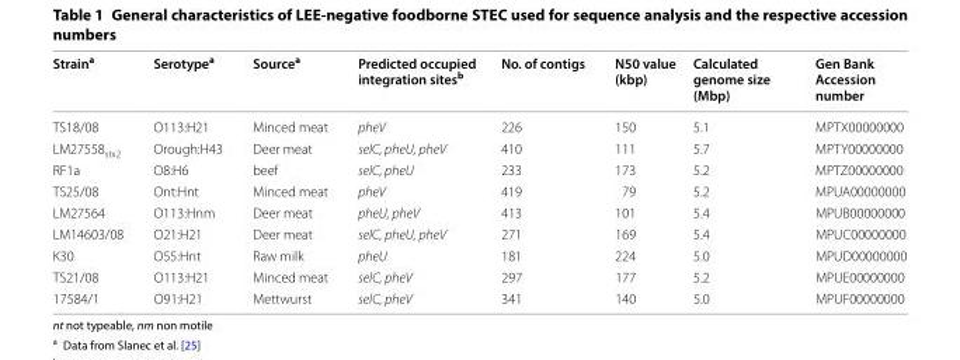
<table><thead><tr><td>Strain<sup>a</sup></td><td>Serotype<sup>a</sup></td><td>Source<sup>a</sup></td><td>Predicted occupied integration sites<sup>b</sup></td><td>No. of contigs</td><td>N50 value (kbp)</td><td>Calculated genome size (Mbp)</td><td>Gen Bank Accession number</td></tr></thead><tbody><tr><td>TS18/08</td><td>O113:H21</td><td>Minced meat</td><td>pheV</td><td>226</td><td>150</td><td>5.1</td><td>MPTX00000000</td></tr><tr><td>LM27558<sub>stx2</sub></td><td>Orough:H43</td><td>Deer meat</td><td>selC, pheU, pheV</td><td>410</td><td>111</td><td>5.7</td><td>MPTY00000000</td></tr><tr><td>RF1a</td><td>O8:H6</td><td>beef</td><td>selC, pheU</td><td>233</td><td>173</td><td>5.2</td><td>MPTZ00000000</td></tr><tr><td>TS25/08</td><td>Ont:Hnt</td><td>Minced meat</td><td>pheV</td><td>419</td><td>79</td><td>5.2</td><td>MPUA00000000</td></tr><tr><td>LM27564</td><td>O113:Hnm</td><td>Deer meat</td><td>pheU, pheV</td><td>413</td><td>101</td><td>5.4</td><td>MPUB00000000</td></tr><tr><td>LM14603/08</td><td>O21:H21</td><td>Deer meat</td><td>selC, pheU, pheV</td><td>271</td><td>169</td><td>5.4</td><td>MPUC00000000</td></tr><tr><td>K30</td><td>O55:Hnt</td><td>Raw milk</td><td>pheU</td><td>181</td><td>224</td><td>5.0</td><td>MPUD00000000</td></tr><tr><td>TS21/08</td><td>O113:H21</td><td>Minced meat</td><td>selC, pheV</td><td>297</td><td>177</td><td>5.2</td><td>MPUE00000000</td></tr><tr><td>17584/1</td><td>O91:H21</td><td>Mettwurst</td><td>selC, pheV</td><td>341</td><td>140</td><td>5.0</td><td>MPUF00000000</td></tr></tbody></table>